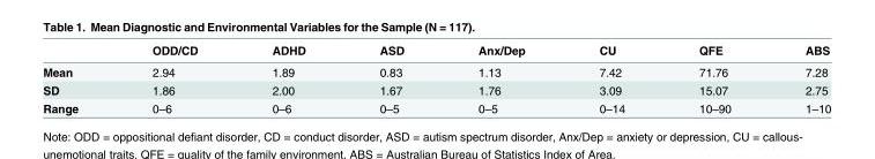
<table><thead><tr><td></td><td>ODD/CD</td><td>ADHD</td><td>ASD</td><td>Anx/Dep</td><td>CU</td><td>QFE</td><td>ABS</td></tr></thead><tbody><tr><td>Mean</td><td>2.94</td><td>1.89</td><td>0.83</td><td>1.13</td><td>7.42</td><td>71.76</td><td>7.28</td></tr><tr><td>SD</td><td>1.86</td><td>2.00</td><td>1.67</td><td>1.76</td><td>3.09</td><td>15.07</td><td>2.75</td></tr><tr><td>Range</td><td>0–6</td><td>0–6</td><td>0–5</td><td>0–5</td><td>0–14</td><td>10–90</td><td>1–10</td></tr></tbody></table>